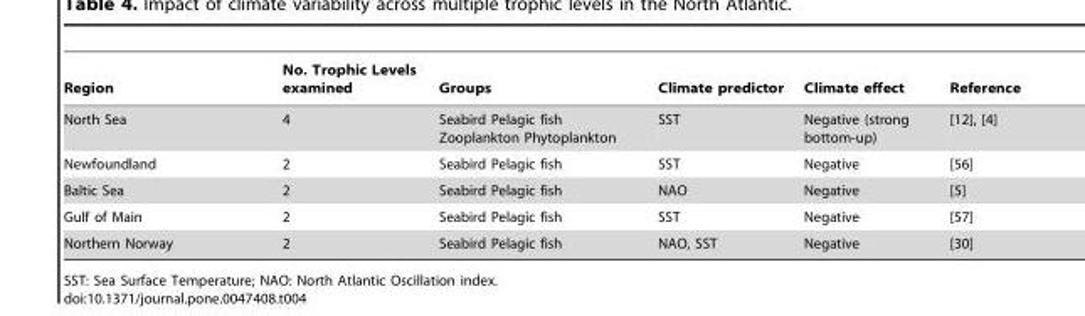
<table><thead><tr><td>Region</td><td>No. Trophic Levels examined</td><td>Groups</td><td>Climate predictor</td><td>Climate effect</td><td>Reference</td></tr></thead><tbody><tr><td>North Sea</td><td>4</td><td>Seabird Pelagic fish Zooplankton Phytoplankton</td><td>SST</td><td>Negative (strong bottom-up)</td><td>[12], [4]</td></tr><tr><td>Newfoundland</td><td>2</td><td>Seabird Pelagic fish</td><td>SST</td><td>Negative</td><td>[56]</td></tr><tr><td>Baltic Sea</td><td>2</td><td>Seabird Pelagic fish</td><td>NAO</td><td>Negative</td><td>[5]</td></tr><tr><td>Gulf of Main</td><td>2</td><td>Seabird Pelagic fish</td><td>SST</td><td>Negative</td><td>[57]</td></tr><tr><td>Northern Norway</td><td>2</td><td>Seabird Pelagic fish</td><td>NAO, SST</td><td>Negative</td><td>[30]</td></tr></tbody></table>